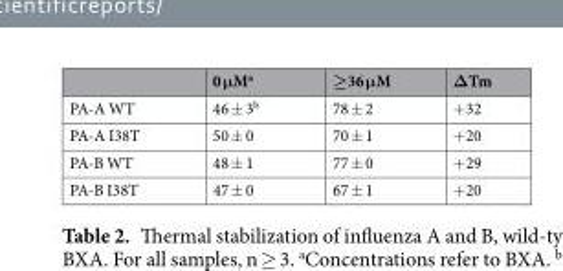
<table><thead><tr><td></td><td>0 μM<sup>a</sup></td><td>≥36 μM</td><td>ΔTm</td></tr></thead><tbody><tr><td>PA-A WT</td><td>46 ± 3<sup>b</sup></td><td>78 ± 2</td><td>+32</td></tr><tr><td>PA-A I38T</td><td>50 ± 0</td><td>70 ± 1</td><td>+20</td></tr><tr><td>PA-B WT</td><td>48 ± 1</td><td>77 ± 0</td><td>+29</td></tr><tr><td>PA-B I38T</td><td>47 ± 0</td><td>67 ± 1</td><td>+20</td></tr></tbody></table>